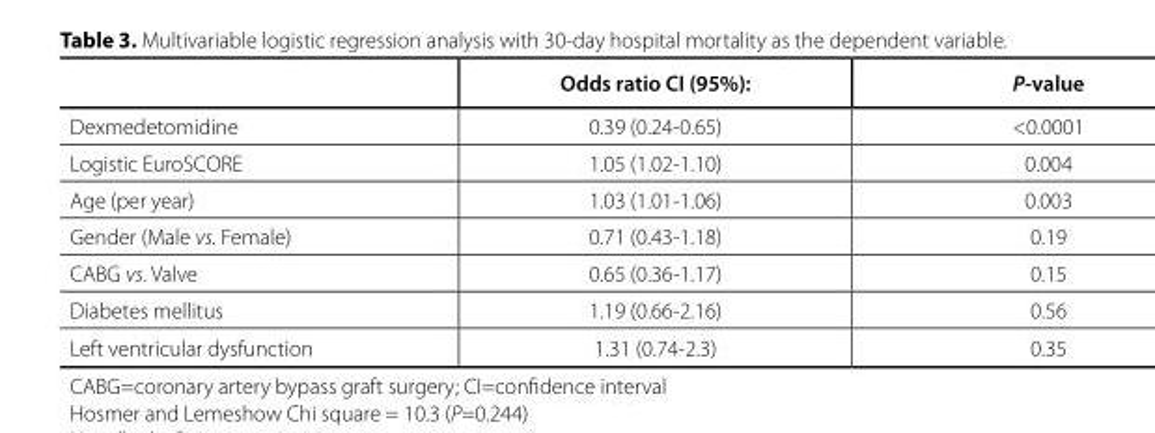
<table><thead><tr><td></td><td>Odds ratio CI (95%):</td><td>P-value</td></tr></thead><tbody><tr><td>Dexmedetomidine</td><td>0.39 (0.24-0.65)</td><td>&lt;0.0001</td></tr><tr><td>Logistic EuroSCORE</td><td>1.05 (1.02-1.10)</td><td>0.004</td></tr><tr><td>Age (per year)</td><td>1.03 (1.01-1.06)</td><td>0.003</td></tr><tr><td>Gender (Male vs. Female)</td><td>0.71 (0.43-1.18)</td><td>0.19</td></tr><tr><td>CABG vs. Valve</td><td>0.65 (0.36-1.17)</td><td>0.15</td></tr><tr><td>Diabetes mellitus</td><td>1.19 (0.66-2.16)</td><td>0.56</td></tr><tr><td>Left ventricular dysfunction</td><td>1.31 (0.74-2.3)</td><td>0.35</td></tr></tbody></table>